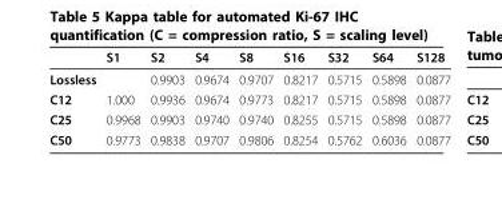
<table><thead><tr><td></td><td>S1</td><td>S2</td><td>S4</td><td>S8</td><td>S16</td><td>S32</td><td>S64</td><td>S128</td></tr></thead><tbody><tr><td>Lossless</td><td></td><td>0.9903</td><td>0.9674</td><td>0.9707</td><td>0.8217</td><td>0.5715</td><td>0.5898</td><td>0.0877</td></tr><tr><td>C12</td><td>1.000</td><td>0.9936</td><td>0.9674</td><td>0.9773</td><td>0.8217</td><td>0.5715</td><td>0.5898</td><td>0.0877</td></tr><tr><td>C25</td><td>0.9968</td><td>0.9903</td><td>0.9740</td><td>0.9740</td><td>0.8255</td><td>0.5715</td><td>0.5898</td><td>0.0877</td></tr><tr><td>C50</td><td>0.9773</td><td>0.9838</td><td>0.9707</td><td>0.9806</td><td>0.8254</td><td>0.5762</td><td>0.6036</td><td>0.0877</td></tr></tbody></table>